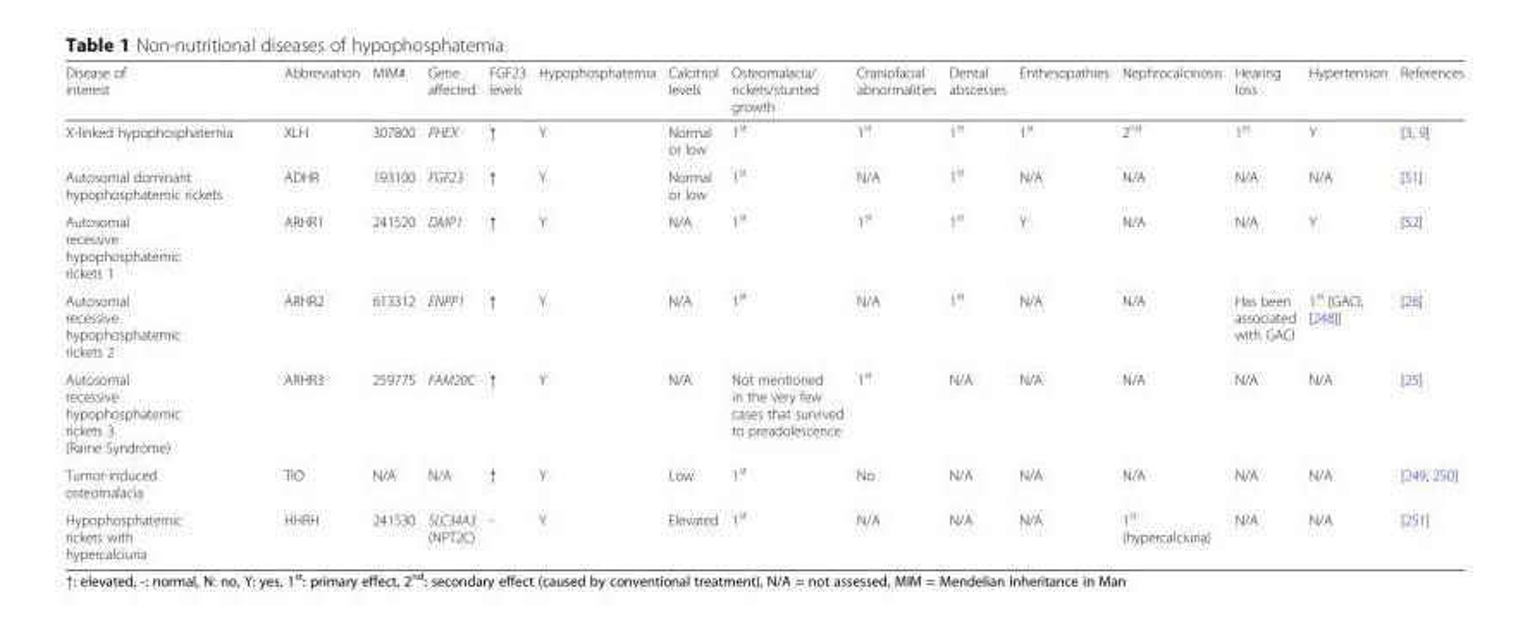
<table><thead><tr><td>Disease of interest</td><td>Abbreviation</td><td>MIM#</td><td>Gene affected</td><td>FGF23 levels</td><td>Hypophosphatemia</td><td>Calcitriol levels</td><td>Osteomalacia/ rickets/stunted growth</td><td>Craniofacial abnormalities</td><td>Dental abscesses</td><td>Enthesopathies</td><td>Nephrocalcinosis</td><td>Hearing loss</td><td>Hypertension</td><td>References</td></tr></thead><tbody><tr><td>X-linked hypophosphatemia</td><td>XLH</td><td>307800</td><td>PHEX</td><td>↑</td><td>Y</td><td>Normal or low</td><td>1<sup>st</sup></td><td>1<sup>st</sup></td><td>1<sup>st</sup></td><td>1<sup>st</sup></td><td>2<sup>nd</sup></td><td>1<sup>st</sup></td><td>Y</td><td>[3, 9]</td></tr><tr><td>Autosomal dominant hypophosphatemic rickets</td><td>ADHR</td><td>193100</td><td>FGF23</td><td>↑</td><td>Y</td><td>Normal or low</td><td>1<sup>st</sup></td><td>N/A</td><td>1<sup>st</sup></td><td>N/A</td><td>N/A</td><td>N/A</td><td>N/A</td><td>[51]</td></tr><tr><td>Autosomal recessive hypophosphatemic rickets 1</td><td>ARHR1</td><td>241520</td><td>DMP1</td><td>↑</td><td>Y</td><td>N/A</td><td>1<sup>st</sup></td><td>1<sup>st</sup></td><td>1<sup>st</sup></td><td>Y</td><td>N/A</td><td>N/A</td><td>Y</td><td>[52]</td></tr><tr><td>Autosomal recessive hypophosphatemic rickets 2</td><td>ARHR2</td><td>613312</td><td>ENPP1</td><td>↑</td><td>Y</td><td>N/A</td><td>1<sup>st</sup></td><td>N/A</td><td>1<sup>st</sup></td><td>N/A</td><td>N/A</td><td>Has been associated with GACI</td><td>1<sup>st</sup> [GACI, [248]]</td><td>[26]</td></tr><tr><td>Autosomal recessive hypophosphatemic rickets 3 (Raine Syndrome)</td><td>ARHR3</td><td>259775</td><td>FAM20C</td><td>↑</td><td>Y</td><td>N/A</td><td>Not mentioned in the very few cases that survived to preadolescence</td><td>1<sup>st</sup></td><td>N/A</td><td>N/A</td><td>N/A</td><td>N/A</td><td>N/A</td><td>[25]</td></tr><tr><td>Tumor-induced osteomalacia</td><td>TIO</td><td>N/A</td><td>N/A</td><td>↑</td><td>Y</td><td>Low</td><td>1<sup>st</sup></td><td>No</td><td>N/A</td><td>N/A</td><td>N/A</td><td>N/A</td><td>N/A</td><td>[249, 250]</td></tr><tr><td>Hypophosphatemic rickets with hypercalciuria</td><td>HHRH</td><td>241530</td><td>SLC34A3 (NPT2C)</td><td>-</td><td>Y</td><td>Elevated</td><td>1<sup>st</sup></td><td>N/A</td><td>N/A</td><td>N/A</td><td>1<sup>st</sup> (hypercalciuria)</td><td>N/A</td><td>N/A</td><td>[251]</td></tr></tbody></table>